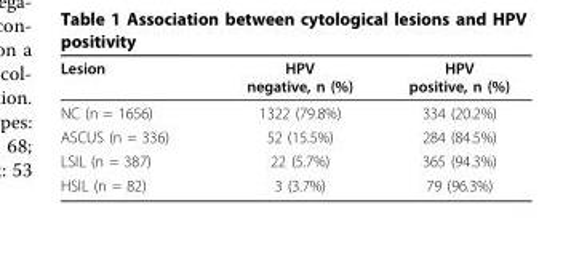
<table><thead><tr><td>Lesion</td><td>HPV negative, n (%)</td><td>HPV positive, n (%)</td></tr></thead><tbody><tr><td>NC (n = 1656)</td><td>1322 (79.8%)</td><td>334 (20.2%)</td></tr><tr><td>ASCUS (n = 336)</td><td>52 (15.5%)</td><td>284 (84.5%)</td></tr><tr><td>LSIL (n = 387)</td><td>22 (5.7%)</td><td>365 (94.3%)</td></tr><tr><td>HSIL (n = 82)</td><td>3 (3.7%)</td><td>79 (96.3%)</td></tr></tbody></table>